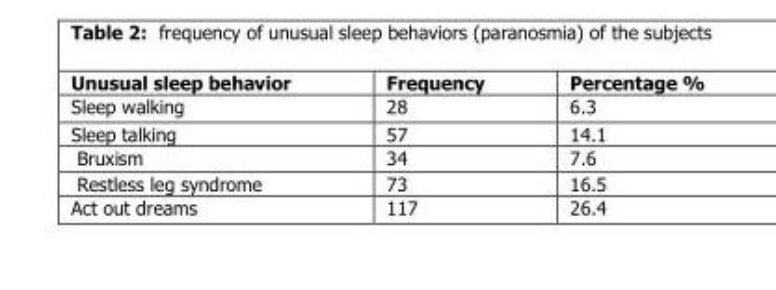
<table><thead><tr><td>Unusual sleep behavior</td><td>Frequency</td><td>Percentage %</td></tr></thead><tbody><tr><td>Sleep walking</td><td>28</td><td>6.3</td></tr><tr><td>Sleep talking</td><td>57</td><td>14.1</td></tr><tr><td>Bruxism</td><td>34</td><td>7.6</td></tr><tr><td>Restless leg syndrome</td><td>73</td><td>16.5</td></tr><tr><td>Act out dreams</td><td>117</td><td>26.4</td></tr></tbody></table>